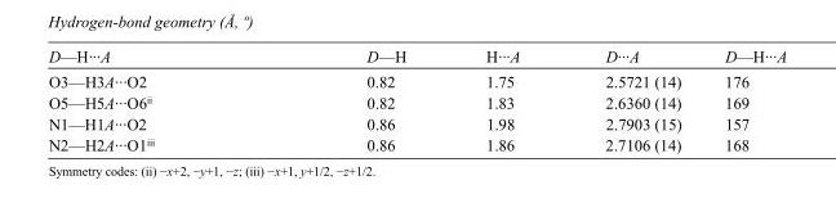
<table><tbody><tr><td>D—H···A</td><td>D—H</td><td>H···A</td><td>D···A</td><td>D—H···A</td></tr><tr><td>O3—H3A···O2</td><td>0.82</td><td>1.75</td><td>2.5721 (14)</td><td>176</td></tr><tr><td>O5—H5A···O6<sup>ii</sup></td><td>0.82</td><td>1.83</td><td>2.6360 (14)</td><td>169</td></tr><tr><td>N1—H1A···O2</td><td>0.86</td><td>1.98</td><td>2.7903 (15)</td><td>157</td></tr><tr><td>N2—H2A···O1<sup>iii</sup></td><td>0.86</td><td>1.86</td><td>2.7106 (14)</td><td>168</td></tr></tbody></table>